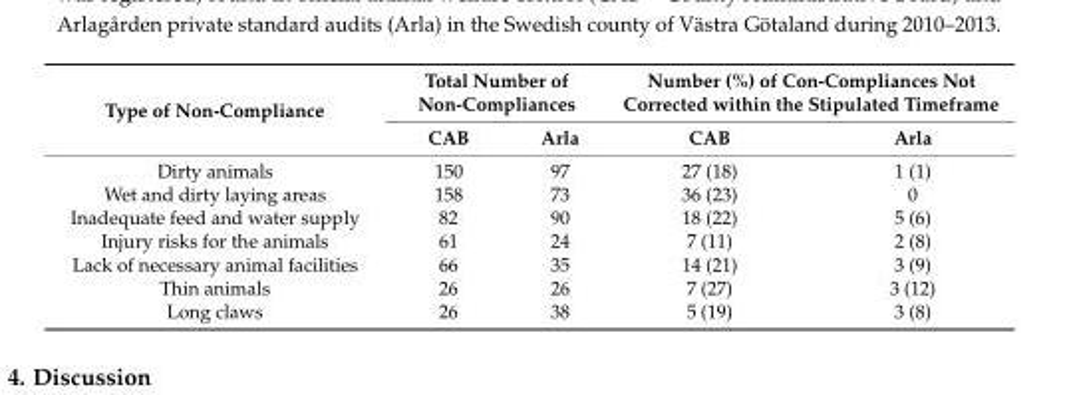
<table><thead><tr><td rowspan="2">Type of Non-Compliance</td><td colspan="2">Total Number of Non-Compliances</td><td colspan="2">Number (%) of Con-Compliances Not Corrected within the Stipulated Timeframe</td></tr><tr><td>CAB</td><td>Arla</td><td>CAB</td><td>Arla</td></tr></thead><tbody><tr><td>Dirty animals</td><td>150</td><td>97</td><td>27 (18)</td><td>1 (1)</td></tr><tr><td>Wet and dirty laying areas</td><td>158</td><td>73</td><td>36 (23)</td><td>0</td></tr><tr><td>Inadequate feed and water supply</td><td>82</td><td>90</td><td>18 (22)</td><td>5 (6)</td></tr><tr><td>Injury risks for the animals</td><td>61</td><td>24</td><td>7 (11)</td><td>2 (8)</td></tr><tr><td>Lack of necessary animal facilities</td><td>66</td><td>35</td><td>14 (21)</td><td>3 (9)</td></tr><tr><td>Thin animals</td><td>26</td><td>26</td><td>7 (27)</td><td>3 (12)</td></tr><tr><td>Long claws</td><td>26</td><td>38</td><td>5 (19)</td><td>3 (8)</td></tr></tbody></table>